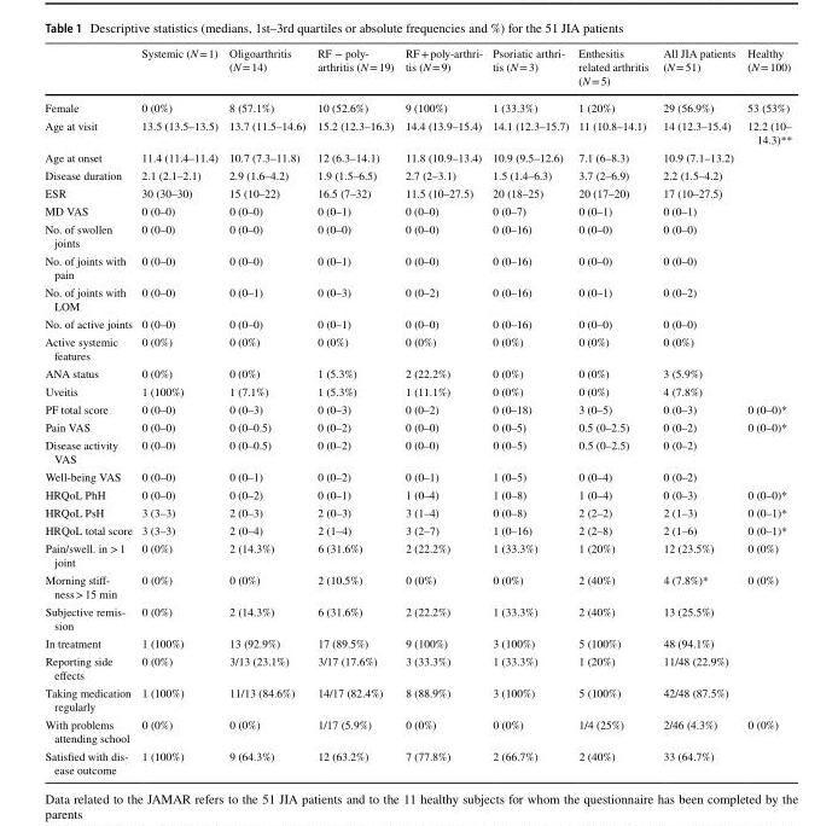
<table><thead><tr><td></td><td>Systemic (N = 1)</td><td>Oligoarthritis (N = 14)</td><td>RF − poly- arthritis (N = 19)</td><td>RF + poly-arthri- tis (N = 9)</td><td>Psoriatic arthri- tis (N = 3)</td><td>Enthesitis related arthritis (N = 5)</td><td>All JIA patients (N = 51)</td><td>Healthy (N = 100)</td></tr></thead><tbody><tr><td>Female</td><td>0 (0%)</td><td>8 (57.1%)</td><td>10 (52.6%)</td><td>9 (100%)</td><td>1 (33.3%)</td><td>1 (20%)</td><td>29 (56.9%)</td><td>53 (53%)</td></tr><tr><td>Age at visit</td><td>13.5 (13.5–13.5)</td><td>13.7 (11.5–14.6)</td><td>15.2 (12.3–16.3)</td><td>14.4 (13.9–15.4)</td><td>14.1 (12.3–15.7)</td><td>11 (10.8–14.1)</td><td>14 (12.3–15.4)</td><td>12.2 (10– 14.3)**</td></tr><tr><td>Age at onset</td><td>11.4 (11.4–11.4)</td><td>10.7 (7.3–11.8)</td><td>12 (6.3–14.1)</td><td>11.8 (10.9–13.4)</td><td>10.9 (9.5–12.6)</td><td>7.1 (6–8.3)</td><td>10.9 (7.1–13.2)</td><td></td></tr><tr><td>Disease duration</td><td>2.1 (2.1–2.1)</td><td>2.9 (1.6–4.2)</td><td>1.9 (1.5–6.5)</td><td>2.7 (2–3.1)</td><td>1.5 (1.4–6.3)</td><td>3.7 (2–6.9)</td><td>2.2 (1.5–4.2)</td><td></td></tr><tr><td>ESR</td><td>30 (30–30)</td><td>15 (10–22)</td><td>16.5 (7–32)</td><td>11.5 (10–27.5)</td><td>20 (18–25)</td><td>20 (17–20)</td><td>17 (10–27.5)</td><td></td></tr><tr><td>MD VAS</td><td>0 (0–0)</td><td>0 (0–0)</td><td>0 (0–1)</td><td>0 (0–0)</td><td>0 (0–7)</td><td>0 (0–1)</td><td>0 (0–1)</td><td></td></tr><tr><td>No. of swollen joints</td><td>0 (0–0)</td><td>0 (0–0)</td><td>0 (0–0)</td><td>0 (0–0)</td><td>0 (0–16)</td><td>0 (0–0)</td><td>0 (0–0)</td><td></td></tr><tr><td>No. of joints with pain</td><td>0 (0–0)</td><td>0 (0–0)</td><td>0 (0–1)</td><td>0 (0–0)</td><td>0 (0–16)</td><td>0 (0–0)</td><td>0 (0–0)</td><td></td></tr><tr><td>No. of joints with LOM</td><td>0 (0–0)</td><td>0 (0–1)</td><td>0 (0–3)</td><td>0 (0–2)</td><td>0 (0–16)</td><td>0 (0–1)</td><td>0 (0–2)</td><td></td></tr><tr><td>No. of active joints</td><td>0 (0–0)</td><td>0 (0–0)</td><td>0 (0–1)</td><td>0 (0–0)</td><td>0 (0–16)</td><td>0 (0–0)</td><td>0 (0–0)</td><td></td></tr><tr><td>Active systemic features</td><td>0 (0%)</td><td>0 (0%)</td><td>0 (0%)</td><td>0 (0%)</td><td>0 (0%)</td><td>0 (0%)</td><td>0 (0%)</td><td></td></tr><tr><td>ANA status</td><td>0 (0%)</td><td>0 (0%)</td><td>1 (5.3%)</td><td>2 (22.2%)</td><td>0 (0%)</td><td>0 (0%)</td><td>3 (5.9%)</td><td></td></tr><tr><td>Uveitis</td><td>1 (100%)</td><td>1 (7.1%)</td><td>1 (5.3%)</td><td>1 (11.1%)</td><td>0 (0%)</td><td>0 (0%)</td><td>4 (7.8%)</td><td></td></tr><tr><td>PF total score</td><td>0 (0–0)</td><td>0 (0–3)</td><td>0 (0–3)</td><td>0 (0–2)</td><td>0 (0–18)</td><td>3 (0–5)</td><td>0 (0–3)</td><td>0 (0–0)*</td></tr><tr><td>Pain VAS</td><td>0 (0–0)</td><td>0 (0–0.5)</td><td>0 (0–2)</td><td>0 (0–0)</td><td>0 (0–5)</td><td>0.5 (0–2.5)</td><td>0 (0–2)</td><td>0 (0–0)*</td></tr><tr><td>Disease activity VAS</td><td>0 (0–0)</td><td>0 (0–0.5)</td><td>0 (0–2)</td><td>0 (0–0)</td><td>0 (0–5)</td><td>0.5 (0–2.5)</td><td>0 (0–2)</td><td></td></tr><tr><td>Well-being VAS</td><td>0 (0–0)</td><td>0 (0–1)</td><td>0 (0–2)</td><td>0 (0–1)</td><td>1 (0–5)</td><td>0 (0–4)</td><td>0 (0–2)</td><td></td></tr><tr><td>HRQoL PhH</td><td>0 (0–0)</td><td>0 (0–2)</td><td>0 (0–1)</td><td>1 (0–4)</td><td>1 (0–8)</td><td>1 (0–4)</td><td>0 (0–3)</td><td>0 (0–0)*</td></tr><tr><td>HRQoL PsH</td><td>3 (3–3)</td><td>2 (0–3)</td><td>2 (0–3)</td><td>3 (1–4)</td><td>0 (0–8)</td><td>2 (2–2)</td><td>2 (1–3)</td><td>0 (0–1)*</td></tr><tr><td>HRQoL total score</td><td>3 (3–3)</td><td>2 (0–4)</td><td>2 (1–4)</td><td>3 (2–7)</td><td>1 (0–16)</td><td>2 (2–8)</td><td>2 (1–6)</td><td>0 (0–1)*</td></tr><tr><td>Pain/swell. in &gt; 1 joint</td><td>0 (0%)</td><td>2 (14.3%)</td><td>6 (31.6%)</td><td>2 (22.2%)</td><td>1 (33.3%)</td><td>1 (20%)</td><td>12 (23.5%)</td><td>0 (0%)</td></tr><tr><td>Morning stiff- ness &gt; 15 min</td><td>0 (0%)</td><td>0 (0%)</td><td>2 (10.5%)</td><td>0 (0%)</td><td>0 (0%)</td><td>2 (40%)</td><td>4 (7.8%)*</td><td>0 (0%)</td></tr><tr><td>Subjective remis- sion</td><td>0 (0%)</td><td>2 (14.3%)</td><td>6 (31.6%)</td><td>2 (22.2%)</td><td>1 (33.3%)</td><td>2 (40%)</td><td>13 (25.5%)</td><td></td></tr><tr><td>In treatment</td><td>1 (100%)</td><td>13 (92.9%)</td><td>17 (89.5%)</td><td>9 (100%)</td><td>3 (100%)</td><td>5 (100%)</td><td>48 (94.1%)</td><td></td></tr><tr><td>Reporting side effects</td><td>0 (0%)</td><td>3/13 (23.1%)</td><td>3/17 (17.6%)</td><td>3 (33.3%)</td><td>1 (33.3%)</td><td>1 (20%)</td><td>11/48 (22.9%)</td><td></td></tr><tr><td>Taking medication regularly</td><td>1 (100%)</td><td>11/13 (84.6%)</td><td>14/17 (82.4%)</td><td>8 (88.9%)</td><td>3 (100%)</td><td>5 (100%)</td><td>42/48 (87.5%)</td><td></td></tr><tr><td>With problems attending school</td><td>0 (0%)</td><td>0 (0%)</td><td>1/17 (5.9%)</td><td>0 (0%)</td><td>0 (0%)</td><td>1/4 (25%)</td><td>2/46 (4.3%)</td><td>0 (0%)</td></tr><tr><td>Satisfied with dis- ease outcome</td><td>1 (100%)</td><td>9 (64.3%)</td><td>12 (63.2%)</td><td>7 (77.8%)</td><td>2 (66.7%)</td><td>2 (40%)</td><td>33 (64.7%)</td><td></td></tr></tbody></table>